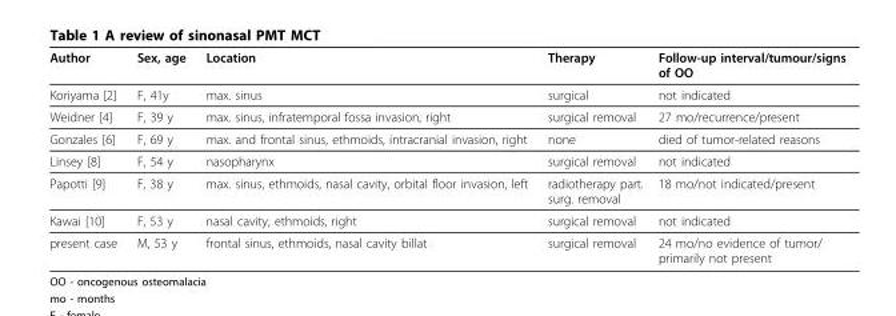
<table><thead><tr><td>Author</td><td>Sex, age</td><td>Location</td><td>Therapy</td><td>Follow-up interval/tumour/signs of OO</td></tr></thead><tbody><tr><td>Koriyama [2]</td><td>F, 41y</td><td>max. sinus</td><td>surgical</td><td>not indicated</td></tr><tr><td>Weidner [4]</td><td>F, 39 y</td><td>max. sinus, infratemporal fossa invasion, right</td><td>surgical removal</td><td>27 mo/recurrence/present</td></tr><tr><td>Gonzales [6]</td><td>F, 69 y</td><td>max. and frontal sinus, ethmoids, intracranial invasion, right</td><td>none</td><td>died of tumor-related reasons</td></tr><tr><td>Linsey [8]</td><td>F, 54 y</td><td>nasopharynx</td><td>surgical removal</td><td>not indicated</td></tr><tr><td>Papotti [9]</td><td>F, 38 y</td><td>max. sinus, ethmoids, nasal cavity, orbital floor invasion, left</td><td>radiotherapy part. surg. removal</td><td>18 mo/not indicated/present</td></tr><tr><td>Kawai [10]</td><td>F, 53 y</td><td>nasal cavity, ethmoids, right</td><td>surgical removal</td><td>not indicated</td></tr><tr><td>present case</td><td>M, 53 y</td><td>frontal sinus, ethmoids, nasal cavity billat</td><td>surgical removal</td><td>24 mo/no evidence of tumor/ primarily not present</td></tr></tbody></table>